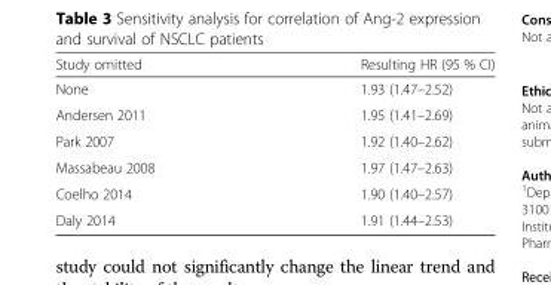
<table><thead><tr><td>Study omitted</td><td>Resulting HR (95 % CI)</td></tr></thead><tbody><tr><td>None</td><td>1.93 (1.47–2.52)</td></tr><tr><td>Andersen 2011</td><td>1.95 (1.41–2.69)</td></tr><tr><td>Park 2007</td><td>1.92 (1.40–2.62)</td></tr><tr><td>Massabeau 2008</td><td>1.97 (1.47–2.63)</td></tr><tr><td>Coelho 2014</td><td>1.90 (1.40–2.57)</td></tr><tr><td>Daly 2014</td><td>1.91 (1.44–2.53)</td></tr></tbody></table>